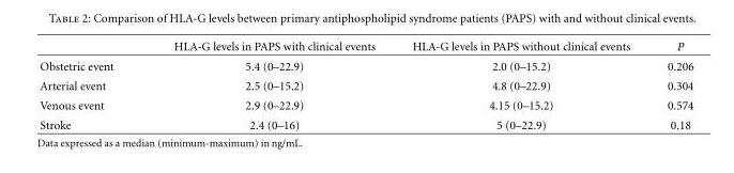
<table><thead><tr><td></td><td>HLA-G levels in PAPS with clinical events</td><td>HLA-G levels in PAPS without clinical events</td><td>P</td></tr></thead><tbody><tr><td>Obstetric event</td><td>5.4 (0–22.9)</td><td>2.0 (0–15.2)</td><td>0.206</td></tr><tr><td>Arterial event</td><td>2.5 (0–15.2)</td><td>4.8 (0–22.9)</td><td>0.304</td></tr><tr><td>Venous event</td><td>2.9 (0–22.9)</td><td>4.15 (0–15.2)</td><td>0.574</td></tr><tr><td>Stroke</td><td>2.4 (0–16)</td><td>5 (0–22.9)</td><td>0.18</td></tr></tbody></table>